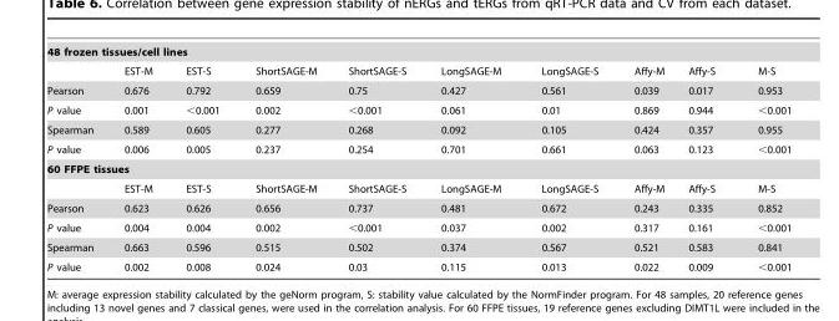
<table><tbody><tr><td colspan="10">48 frozen tissues/cell lines</td></tr><tr><td></td><td>EST-M</td><td>EST-S</td><td>ShortSAGE-M</td><td>ShortSAGE-S</td><td>LongSAGE-M</td><td>LongSAGE-S</td><td>Affy-M</td><td>Affy-S</td><td>M-S</td></tr><tr><td>Pearson</td><td>0.676</td><td>0.792</td><td>0.659</td><td>0.75</td><td>0.427</td><td>0.561</td><td>0.039</td><td>0.017</td><td>0.953</td></tr><tr><td>P value</td><td>0.001</td><td>&lt;0.001</td><td>0.002</td><td>&lt;0.001</td><td>0.061</td><td>0.01</td><td>0.869</td><td>0.944</td><td>&lt;0.001</td></tr><tr><td>Spearman</td><td>0.589</td><td>0.605</td><td>0.277</td><td>0.268</td><td>0.092</td><td>0.105</td><td>0.424</td><td>0.357</td><td>0.955</td></tr><tr><td>P value</td><td>0.006</td><td>0.005</td><td>0.237</td><td>0.254</td><td>0.701</td><td>0.661</td><td>0.063</td><td>0.123</td><td>&lt;0.001</td></tr><tr><td colspan="10">60 FFPE tissues</td></tr><tr><td></td><td>EST-M</td><td>EST-S</td><td>ShortSAGE-M</td><td>ShortSAGE-S</td><td>LongSAGE-M</td><td>LongSAGE-S</td><td>Affy-M</td><td>Affy-S</td><td>M-S</td></tr><tr><td>Pearson</td><td>0.623</td><td>0.626</td><td>0.656</td><td>0.737</td><td>0.481</td><td>0.672</td><td>0.243</td><td>0.335</td><td>0.852</td></tr><tr><td>P value</td><td>0.004</td><td>0.004</td><td>0.002</td><td>&lt;0.001</td><td>0.037</td><td>0.002</td><td>0.317</td><td>0.161</td><td>&lt;0.001</td></tr><tr><td>Spearman</td><td>0.663</td><td>0.596</td><td>0.515</td><td>0.502</td><td>0.374</td><td>0.567</td><td>0.521</td><td>0.583</td><td>0.841</td></tr><tr><td>P value</td><td>0.002</td><td>0.008</td><td>0.024</td><td>0.03</td><td>0.115</td><td>0.013</td><td>0.022</td><td>0.009</td><td>&lt;0.001</td></tr></tbody></table>